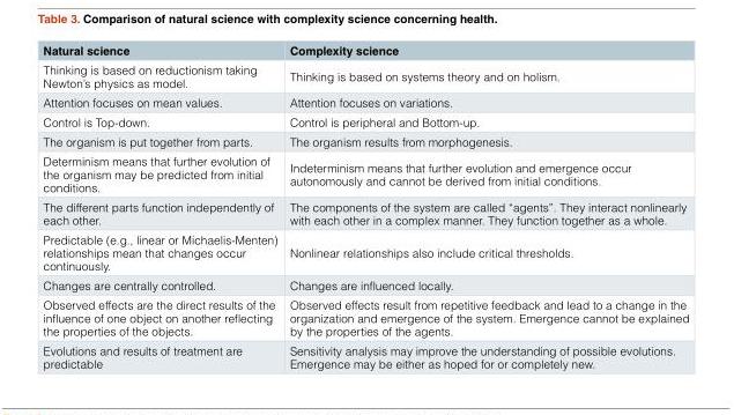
<table><thead><tr><td>Natural science</td><td>Complexity science</td></tr></thead><tbody><tr><td>Thinking is based on reductionism taking Newton’s physics as model.</td><td>Thinking is based on systems theory and on holism.</td></tr><tr><td>Attention focuses on mean values.</td><td>Attention focuses on variations.</td></tr><tr><td>Control is Top-down.</td><td>Control is peripheral and Bottom-up.</td></tr><tr><td>The organism is put together from parts.</td><td>The organism results from morphogenesis.</td></tr><tr><td>Determinism means that further evolution of the organism may be predicted from initial conditions.</td><td>Indeterminism means that further evolution and emergence occur autonomously and cannot be derived from initial conditions.</td></tr><tr><td>The different parts function independently of each other.</td><td>The components of the system are called “agents”. They interact nonlinearly with each other in a complex manner. They function together as a whole.</td></tr><tr><td>Predictable (e.g., linear or Michaelis-Menten) relationships mean that changes occur continuously.</td><td>Nonlinear relationships also include critical thresholds.</td></tr><tr><td>Changes are centrally controlled.</td><td>Changes are influenced locally.</td></tr><tr><td>Observed effects are the direct results of the influence of one object on another reflecting the properties of the objects.</td><td>Observed effects result from repetitive feedback and lead to a change in the organization and emergence of the system. Emergence cannot be explained by the properties of the agents.</td></tr><tr><td>Evolutions and results of treatment are predictable</td><td>Sensitivity analysis may improve the understanding of possible evolutions. Emergence may be either as hoped for or completely new.</td></tr></tbody></table>